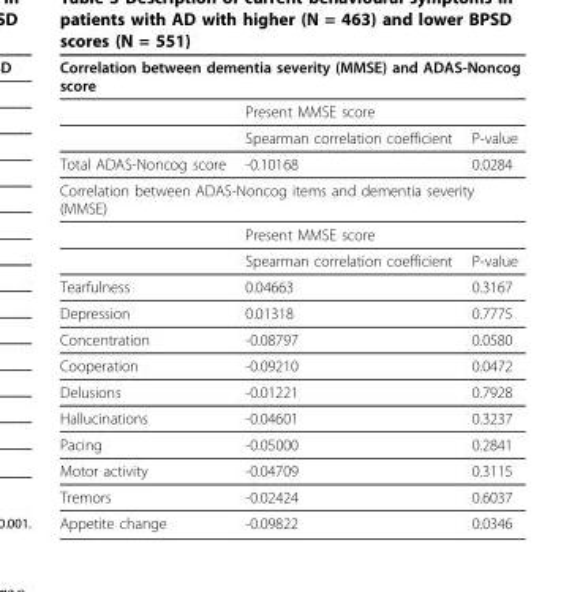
<table><thead><tr><td colspan="3">Correlation between dementia severity (MMSE) and ADAS-Noncog score</td></tr><tr><td rowspan="2"></td><td colspan="2">Present MMSE score</td></tr><tr><td>Spearman correlation coefficient</td><td>P-value</td></tr></thead><tbody><tr><td>Total ADAS-Noncog score</td><td>-0.10168</td><td>0.0284</td></tr><tr><td colspan="3">Correlation between ADAS-Noncog items and dementia severity (MMSE)</td></tr><tr><td></td><td colspan="2">Present MMSE score</td></tr><tr><td></td><td>Spearman correlation coefficient</td><td>P-value</td></tr><tr><td>Tearfulness</td><td>0.04663</td><td>0.3167</td></tr><tr><td>Depression</td><td>0.01318</td><td>0.7775</td></tr><tr><td>Concentration</td><td>-0.08797</td><td>0.0580</td></tr><tr><td>Cooperation</td><td>-0.09210</td><td>0.0472</td></tr><tr><td>Delusions</td><td>-0.01221</td><td>0.7928</td></tr><tr><td>Hallucinations</td><td>-0.04601</td><td>0.3237</td></tr><tr><td>Pacing</td><td>-0.05000</td><td>0.2841</td></tr><tr><td>Motor activity</td><td>-0.04709</td><td>0.3115</td></tr><tr><td>Tremors</td><td>-0.02424</td><td>0.6037</td></tr><tr><td>Appetite change</td><td>-0.09822</td><td>0.0346</td></tr></tbody></table>